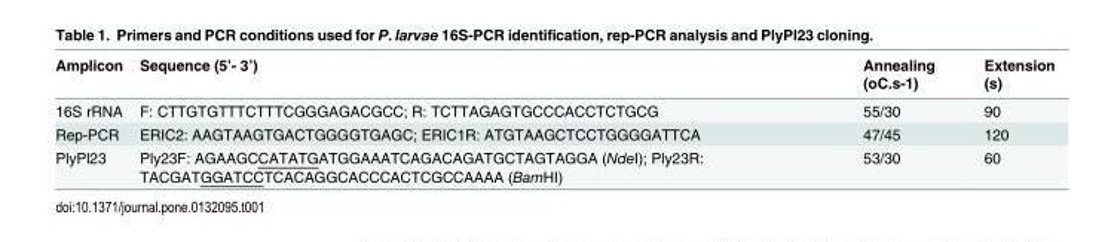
<table><thead><tr><td>Amplicon</td><td>Sequence (5’- 3’)</td><td>Annealing (oC.s-1)</td><td>Extension (s)</td></tr></thead><tbody><tr><td>16S rRNA</td><td>F: CTTGTGTTTCTTTCGGGAGACGCC; R: TCTTAGAGTGCCCACCTCTGCG</td><td>55/30</td><td>90</td></tr><tr><td>Rep-PCR</td><td>ERIC2: AAGTAAGTGACTGGGGTGAGC; ERIC1R: ATGTAAGCTCCTGGGGATTCA</td><td>47/45</td><td>120</td></tr><tr><td>PlyPl23</td><td>Ply23F: AGAAGCCATATGATGGAAATCAGACAGATGCTAGTAGGA (NdeI); Ply23R: TACGATGGATCCTCACAGGCACCCACTCGCCAAAA (BamHI)</td><td>53/30</td><td>60</td></tr></tbody></table>